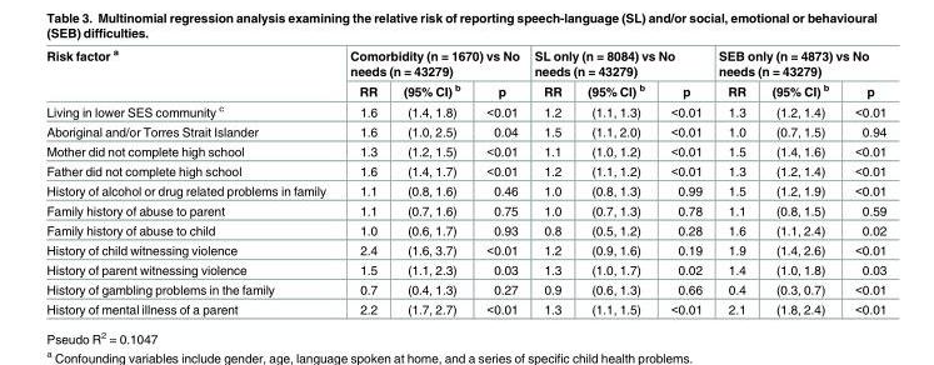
<table><thead><tr><td rowspan="2">Risk factor <sup>a</sup></td><td colspan="3">Comorbidity (n = 1670) vs No needs (n = 43279)</td><td colspan="3">SL only (n = 8084) vs No needs (n = 43279)</td><td colspan="3">SEB only (n = 4873) vs No needs (n = 43279)</td></tr><tr><td>RR</td><td>(95% CI) <sup>b</sup></td><td>p</td><td>RR</td><td>(95% CI) <sup>b</sup></td><td>p</td><td>RR</td><td>(95% CI) <sup>b</sup></td><td>p</td></tr></thead><tbody><tr><td>Living in lower SES community <sup>c</sup></td><td>1.6</td><td>(1.4, 1.8)</td><td>&lt;0.01</td><td>1.2</td><td>(1.1, 1.3)</td><td>&lt;0.01</td><td>1.3</td><td>(1.2, 1.4)</td><td>&lt;0.01</td></tr><tr><td>Aboriginal and/or Torres Strait Islander</td><td>1.6</td><td>(1.0, 2.5)</td><td>0.04</td><td>1.5</td><td>(1.1, 2.0)</td><td>&lt;0.01</td><td>1.0</td><td>(0.7, 1.5)</td><td>0.94</td></tr><tr><td>Mother did not complete high school</td><td>1.3</td><td>(1.2, 1.5)</td><td>&lt;0.01</td><td>1.1</td><td>(1.0, 1.2)</td><td>&lt;0.01</td><td>1.5</td><td>(1.4, 1.6)</td><td>&lt;0.01</td></tr><tr><td>Father did not complete high school</td><td>1.6</td><td>(1.4, 1.7)</td><td>&lt;0.01</td><td>1.2</td><td>(1.1, 1.2)</td><td>&lt;0.01</td><td>1.3</td><td>(1.2, 1.4)</td><td>&lt;0.01</td></tr><tr><td>History of alcohol or drug related problems in family</td><td>1.1</td><td>(0.8, 1.6)</td><td>0.46</td><td>1.0</td><td>(0.8, 1.3)</td><td>0.99</td><td>1.5</td><td>(1.2, 1.9)</td><td>&lt;0.01</td></tr><tr><td>Family history of abuse to parent</td><td>1.1</td><td>(0.7, 1.6)</td><td>0.75</td><td>1.0</td><td>(0.7, 1.3)</td><td>0.78</td><td>1.1</td><td>(0.8, 1.5)</td><td>0.59</td></tr><tr><td>Family history of abuse to child</td><td>1.0</td><td>(0.6, 1.7)</td><td>0.93</td><td>0.8</td><td>(0.5, 1.2)</td><td>0.28</td><td>1.6</td><td>(1.1, 2.4)</td><td>0.02</td></tr><tr><td>History of child witnessing violence</td><td>2.4</td><td>(1.6, 3.7)</td><td>&lt;0.01</td><td>1.2</td><td>(0.9, 1.6)</td><td>0.19</td><td>1.9</td><td>(1.4, 2.6)</td><td>&lt;0.01</td></tr><tr><td>History of parent witnessing violence</td><td>1.5</td><td>(1.1, 2.3)</td><td>0.03</td><td>1.3</td><td>(1.0, 1.7)</td><td>0.02</td><td>1.4</td><td>(1.0, 1.8)</td><td>0.03</td></tr><tr><td>History of gambling problems in the family</td><td>0.7</td><td>(0.4, 1.3)</td><td>0.27</td><td>0.9</td><td>(0.6, 1.3)</td><td>0.66</td><td>0.4</td><td>(0.3, 0.7)</td><td>&lt;0.01</td></tr><tr><td>History of mental illness of a parent</td><td>2.2</td><td>(1.7, 2.7)</td><td>&lt;0.01</td><td>1.3</td><td>(1.1, 1.5)</td><td>&lt;0.01</td><td>2.1</td><td>(1.8, 2.4)</td><td>&lt;0.01</td></tr></tbody></table>